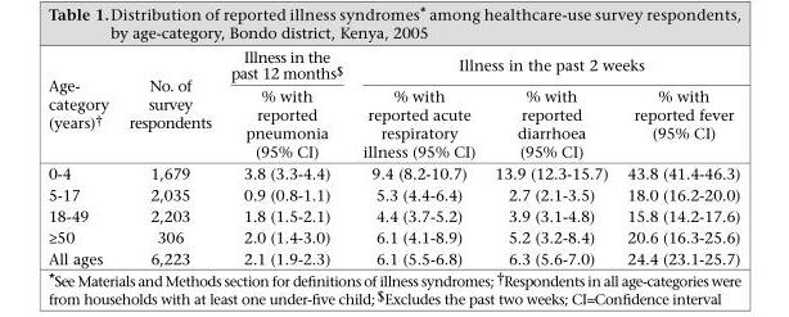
<table><thead><tr><td rowspan="2">Age- category (years)†</td><td rowspan="2">No. of survey respondents</td><td rowspan="2">Illness in the past 12 months$ % with reported pneumonia (95% CI)</td><td colspan="3">Illness in the past 2 weeks</td></tr><tr><td>% with reported acute respiratory illness (95% CI)</td><td>% with reported diarrhoea (95% CI)</td><td>% with reported fever (95% CI)</td></tr></thead><tbody><tr><td>0-4</td><td>1,679</td><td>3.8 (3.3-4.4)</td><td>9.4 (8.2-10.7)</td><td>13.9 (12.3-15.7)</td><td>43.8 (41.4-46.3)</td></tr><tr><td>5-17</td><td>2,035</td><td>0.9 (0.8-1.1)</td><td>5.3 (4.4-6.4)</td><td>2.7 (2.1-3.5)</td><td>18.0 (16.2-20.0)</td></tr><tr><td>18-49</td><td>2,203</td><td>1.8 (1.5-2.1)</td><td>4.4 (3.7-5.2)</td><td>3.9 (3.1-4.8)</td><td>15.8 (14.2-17.6)</td></tr><tr><td>≥50</td><td>306</td><td>2.0 (1.4-3.0)</td><td>6.1 (4.1-8.9)</td><td>5.2 (3.2-8.4)</td><td>20.6 (16.3-25.6)</td></tr><tr><td>All ages</td><td>6,223</td><td>2.1 (1.9-2.3)</td><td>6.1 (5.5-6.8)</td><td>6.3 (5.6-7.0)</td><td>24.4 (23.1-25.7)</td></tr></tbody></table>